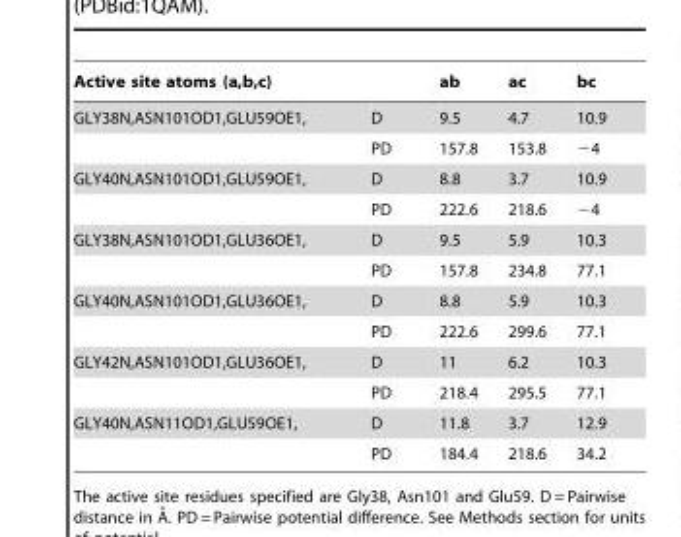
<table><thead><tr><td>Active site atoms (a,b,c)</td><td></td><td>ab</td><td>ac</td><td>bc</td></tr></thead><tbody><tr><td rowspan="2">GLY38N,ASN101OD1,GLU59OE1,</td><td>D</td><td>9.5</td><td>4.7</td><td>10.9</td></tr><tr><td>PD</td><td>157.8</td><td>153.8</td><td>−4</td></tr><tr><td rowspan="2">GLY40N,ASN101OD1,GLU59OE1,</td><td>D</td><td>8.8</td><td>3.7</td><td>10.9</td></tr><tr><td>PD</td><td>222.6</td><td>218.6</td><td>−4</td></tr><tr><td rowspan="2">GLY38N,ASN101OD1,GLU36OE1,</td><td>D</td><td>9.5</td><td>5.9</td><td>10.3</td></tr><tr><td>PD</td><td>157.8</td><td>234.8</td><td>77.1</td></tr><tr><td rowspan="2">GLY40N,ASN101OD1,GLU36OE1,</td><td>D</td><td>8.8</td><td>5.9</td><td>10.3</td></tr><tr><td>PD</td><td>222.6</td><td>299.6</td><td>77.1</td></tr><tr><td rowspan="2">GLY42N,ASN101OD1,GLU36OE1,</td><td>D</td><td>11</td><td>6.2</td><td>10.3</td></tr><tr><td>PD</td><td>218.4</td><td>295.5</td><td>77.1</td></tr><tr><td rowspan="2">GLY40N,ASN11OD1,GLU59OE1,</td><td>D</td><td>11.8</td><td>3.7</td><td>12.9</td></tr><tr><td>PD</td><td>184.4</td><td>218.6</td><td>34.2</td></tr></tbody></table>